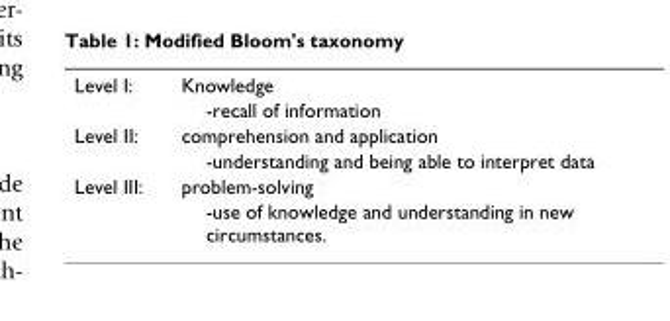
<table><tbody><tr><td rowspan="2">Level I:</td><td>Knowledge</td></tr><tr><td>-recall of information</td></tr><tr><td rowspan="2">Level II:</td><td>comprehension and application</td></tr><tr><td>-understanding and being able to interpret data</td></tr><tr><td rowspan="2">Level III:</td><td>problem-solving</td></tr><tr><td>-use of knowledge and understanding in new circumstances.</td></tr></tbody></table>